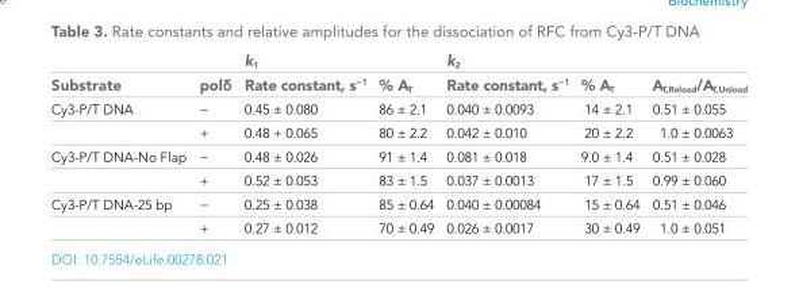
<table><thead><tr><td rowspan="2">Substrate</td><td rowspan="2">polδ</td><td colspan="2">k<sub>1</sub></td><td colspan="2">k<sub>2</sub></td><td rowspan="2">A<sub>T,Reload</sub>/A<sub>T,Unload</sub></td></tr><tr><td>Rate constant, s<sup>−1</sup></td><td>% A<sub>T</sub></td><td>Rate constant, s<sup>−1</sup></td><td>% A<sub>T</sub></td></tr></thead><tbody><tr><td rowspan="2">Cy3-P/T DNA</td><td>−</td><td>0.45 ± 0.080</td><td>86 ± 2.1</td><td>0.040 ± 0.0093</td><td>14 ± 2.1</td><td>0.51 ± 0.055</td></tr><tr><td>+</td><td>0.48 + 0.065</td><td>80 ± 2.2</td><td>0.042 ± 0.010</td><td>20 ± 2.2</td><td>1.0 ± 0.0063</td></tr><tr><td rowspan="2">Cy3-P/T DNA-No Flap</td><td>−</td><td>0.48 ± 0.026</td><td>91 ± 1.4</td><td>0.081 ± 0.018</td><td>9.0 ± 1.4</td><td>0.51 ± 0.028</td></tr><tr><td>+</td><td>0.52 ± 0.053</td><td>83 ± 1.5</td><td>0.037 ± 0.0013</td><td>17 ± 1.5</td><td>0.99 ± 0.060</td></tr><tr><td rowspan="2">Cy3-P/T DNA-25 bp</td><td>−</td><td>0.25 ± 0.038</td><td>85 ± 0.64</td><td>0.040 ± 0.00084</td><td>15 ± 0.64</td><td>0.51 ± 0.046</td></tr><tr><td>+</td><td>0.27 ± 0.012</td><td>70 ± 0.49</td><td>0.026 ± 0.0017</td><td>30 ± 0.49</td><td>1.0 ± 0.051</td></tr></tbody></table>